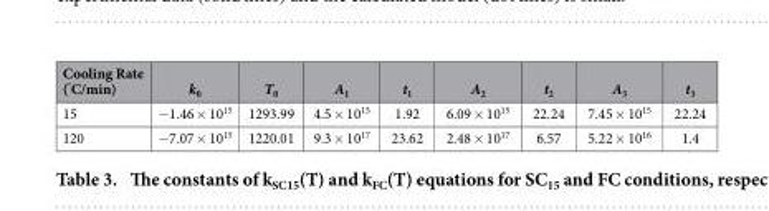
<table><thead><tr><td>Cooling Rate (<sup>°</sup>C/min)</td><td>k<sub>0</sub></td><td>T<sub>0</sub></td><td>A<sub>1</sub></td><td>t<sub>1</sub></td><td>A<sub>2</sub></td><td>t<sub>2</sub></td><td>A<sub>3</sub></td><td>t<sub>3</sub></td></tr></thead><tbody><tr><td>15</td><td>− 1.46 × 10<sup>15</sup></td><td>1293.99</td><td>4.5 × 10<sup>15</sup></td><td>1.92</td><td>6.09 × 10<sup>15</sup></td><td>22.24</td><td>7.45 × 10<sup>15</sup></td><td>22.24</td></tr><tr><td>120</td><td>− 7.07 × 10<sup>15</sup></td><td>1220.01</td><td>9.3 × 10<sup>17</sup></td><td>23.62</td><td>2.48 × 10<sup>17</sup></td><td>6.57</td><td>5.22 × 10<sup>16</sup></td><td>1.4</td></tr></tbody></table>